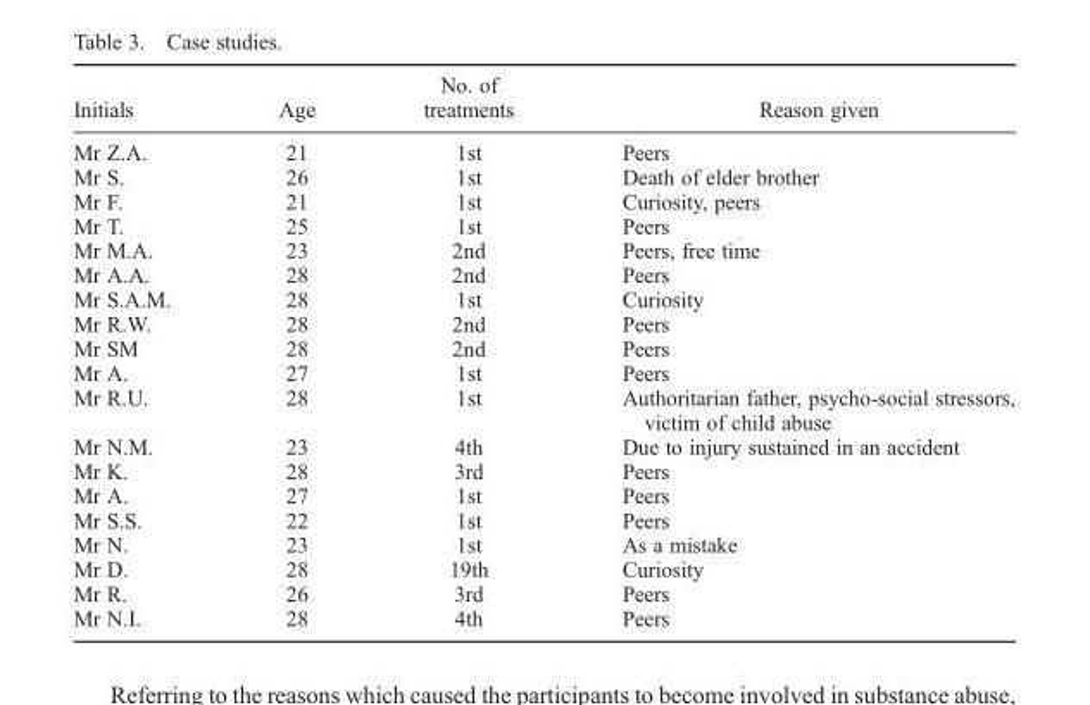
<table><thead><tr><td>Initials</td><td>Age</td><td>No. of treatments</td><td>Reason given</td></tr></thead><tbody><tr><td>Mr Z.A.</td><td>21</td><td>1st</td><td>Peers</td></tr><tr><td>Mr S.</td><td>26</td><td>1st</td><td>Death of elder brother</td></tr><tr><td>Mr F.</td><td>21</td><td>1st</td><td>Curiosity, peers</td></tr><tr><td>Mr T.</td><td>25</td><td>1st</td><td>Peers</td></tr><tr><td>Mr M.A.</td><td>23</td><td>2nd</td><td>Peers, free time</td></tr><tr><td>Mr A.A.</td><td>28</td><td>2nd</td><td>Peers</td></tr><tr><td>Mr S.A.M.</td><td>28</td><td>1st</td><td>Curiosity</td></tr><tr><td>Mr R.W.</td><td>28</td><td>2nd</td><td>Peers</td></tr><tr><td>Mr SM</td><td>28</td><td>2nd</td><td>Peers</td></tr><tr><td>Mr A.</td><td>27</td><td>1st</td><td>Peers</td></tr><tr><td>Mr R.U.</td><td>28</td><td>1st</td><td>Authoritarian father, psycho-social stressors, victim of child abuse</td></tr><tr><td>Mr N.M.</td><td>23</td><td>4th</td><td>Due to injury sustained in an accident</td></tr><tr><td>Mr K.</td><td>28</td><td>3rd</td><td>Peers</td></tr><tr><td>Mr A.</td><td>27</td><td>1st</td><td>Peers</td></tr><tr><td>Mr S.S.</td><td>22</td><td>1st</td><td>Peers</td></tr><tr><td>Mr N.</td><td>23</td><td>1st</td><td>As a mistake</td></tr><tr><td>Mr D.</td><td>28</td><td>19th</td><td>Curiosity</td></tr><tr><td>Mr R.</td><td>26</td><td>3rd</td><td>Peers</td></tr><tr><td>Mr N.I.</td><td>28</td><td>4th</td><td>Peers</td></tr></tbody></table>